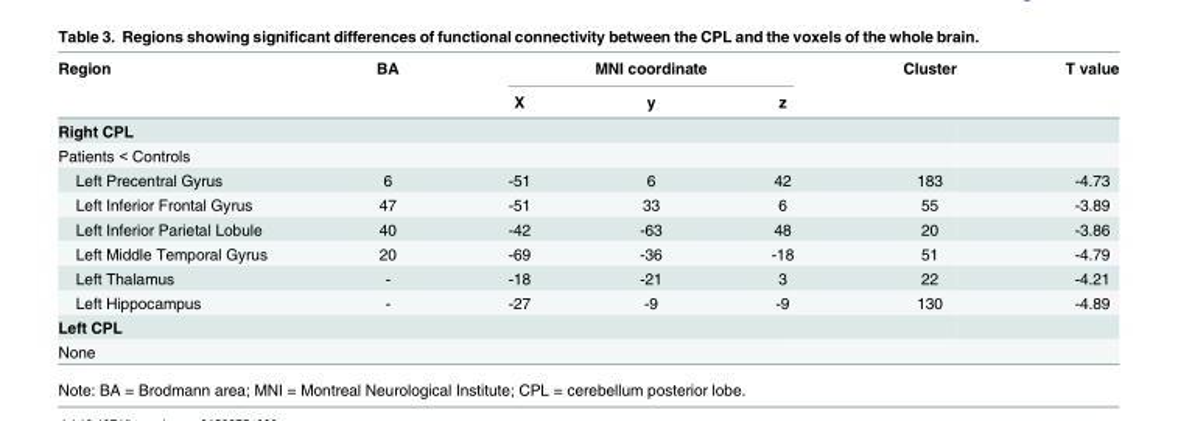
<table><thead><tr><td rowspan="2">Region</td><td rowspan="2">BA</td><td colspan="3">MNI coordinate</td><td rowspan="2">Cluster</td><td rowspan="2">T value</td></tr><tr><td>X</td><td>y</td><td>z</td></tr></thead><tbody><tr><td colspan="7">Right CPL</td></tr><tr><td colspan="7">Patients &lt; Controls</td></tr><tr><td>Left Precentral Gyrus</td><td>6</td><td>-51</td><td>6</td><td>42</td><td>183</td><td>-4.73</td></tr><tr><td>Left Inferior Frontal Gyrus</td><td>47</td><td>-51</td><td>33</td><td>6</td><td>55</td><td>-3.89</td></tr><tr><td>Left Inferior Parietal Lobule</td><td>40</td><td>-42</td><td>-63</td><td>48</td><td>20</td><td>-3.86</td></tr><tr><td>Left Middle Temporal Gyrus</td><td>20</td><td>-69</td><td>-36</td><td>-18</td><td>51</td><td>-4.79</td></tr><tr><td>Left Thalamus</td><td>-</td><td>-18</td><td>-21</td><td>3</td><td>22</td><td>-4.21</td></tr><tr><td>Left Hippocampus</td><td>-</td><td>-27</td><td>-9</td><td>-9</td><td>130</td><td>-4.89</td></tr><tr><td colspan="7">Left CPL</td></tr><tr><td>None</td><td></td><td></td><td></td><td></td><td></td><td></td></tr></tbody></table>